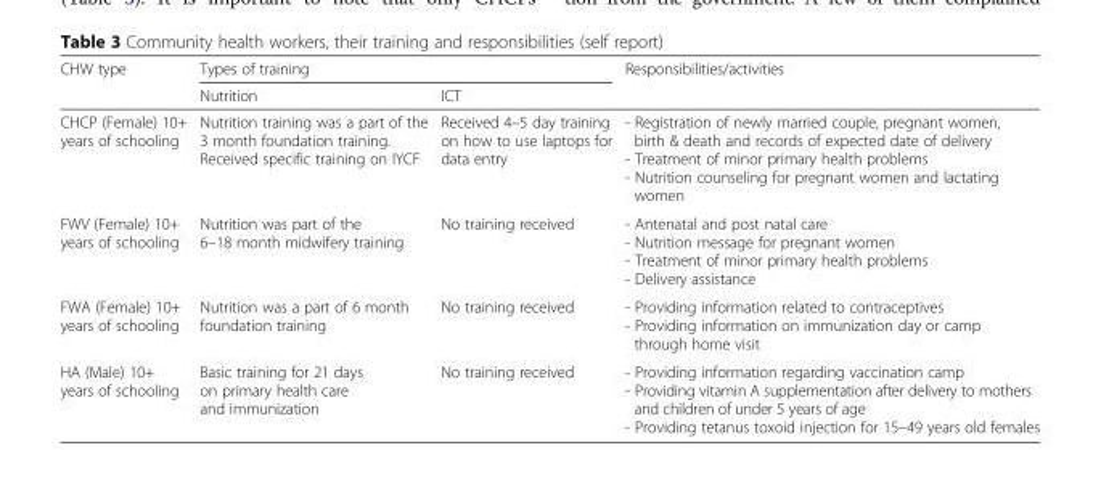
<table><thead><tr><td rowspan="2">CHW type</td><td colspan="2">Types of training</td><td rowspan="2">Responsibilities/activities</td></tr><tr><td>Nutrition</td><td>ICT</td></tr></thead><tbody><tr><td>CHCP (Female) 10+ years of schooling</td><td>Nutrition training was a part of the 3 month foundation training. Received specific training on IYCF</td><td>Received 4–5 day training on how to use laptops for data entry</td><td>- Registration of newly married couple, pregnant women, birth &amp; death and records of expected date of delivery - Treatment of minor primary health problems - Nutrition counseling for pregnant women and lactating women</td></tr><tr><td>FWV (Female) 10+ years of schooling</td><td>Nutrition was part of the 6–18 month midwifery training</td><td>No training received</td><td>- Antenatal and post natal care - Nutrition message for pregnant women - Treatment of minor primary health problems - Delivery assistance</td></tr><tr><td>FWA (Female) 10+ years of schooling</td><td>Nutrition was a part of 6 month foundation training</td><td>No training received</td><td>- Providing information related to contraceptives - Providing information on immunization day or camp through home visit</td></tr><tr><td>HA (Male) 10+ years of schooling</td><td>Basic training for 21 days on primary health care and immunization</td><td>No training received</td><td>- Providing information regarding vaccination camp - Providing vitamin A supplementation after delivery to mothers and children of under 5 years of age - Providing tetanus toxoid injection for 15–49 years old females</td></tr></tbody></table>